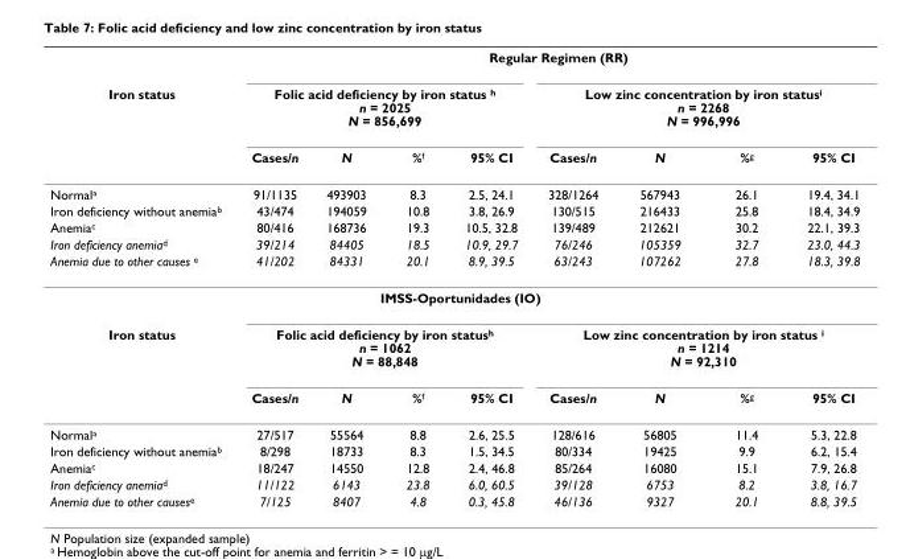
<table><thead><tr><td rowspan="3">Iron status</td><td colspan="8">Regular Regimen (RR)</td></tr><tr><td colspan="4">Folic acid deficiency by iron status <sup>h</sup> n = 2025 N = 856,699</td><td colspan="4">Low zinc concentration by iron status<sup>i</sup> n = 2268 N = 996,996</td></tr><tr><td>Cases/n</td><td>N</td><td>%<sup>f</sup></td><td>95% CI</td><td>Cases/n</td><td>N</td><td>%<sup>g</sup></td><td>95% CI</td></tr></thead><tbody><tr><td>Normal<sup>a</sup></td><td>91/1135</td><td>493903</td><td>8.3</td><td>2.5, 24.1</td><td>328/1264</td><td>567943</td><td>26.1</td><td>19.4, 34.1</td></tr><tr><td>Iron deficiency without anemia<sup>b</sup></td><td>43/474</td><td>194059</td><td>10.8</td><td>3.8, 26.9</td><td>130/515</td><td>216433</td><td>25.8</td><td>18.4, 34.9</td></tr><tr><td>Anemia<sup>c</sup></td><td>80/416</td><td>168736</td><td>19.3</td><td>10.5, 32.8</td><td>139/489</td><td>212621</td><td>30.2</td><td>22.1, 39.3</td></tr><tr><td>Iron deficiency anemia<sup>d</sup></td><td>39/214</td><td>84405</td><td>18.5</td><td>10.9, 29.7</td><td>76/246</td><td>105359</td><td>32.7</td><td>23.0, 44.3</td></tr><tr><td>Anemia due to other causes <sup>e</sup></td><td>41/202</td><td>84331</td><td>20.1</td><td>8.9, 39.5</td><td>63/243</td><td>107262</td><td>27.8</td><td>18.3, 39.8</td></tr><tr><td colspan="9">IMSS-Oportunidades (IO)</td></tr><tr><td rowspan="2">Iron status</td><td colspan="4">Folic acid deficiency by iron status<sup>h</sup> n = 1062 N = 88,848</td><td colspan="4">Low zinc concentration by iron status <sup>i</sup> n = 1214 N = 92,310</td></tr><tr><td>Cases/n</td><td>N</td><td>%<sup>f</sup></td><td>95% CI</td><td>Cases/n</td><td>N</td><td>%<sup>g</sup></td><td>95% CI</td></tr><tr><td>Normal<sup>a</sup></td><td>27/517</td><td>55564</td><td>8.8</td><td>2.6, 25.5</td><td>128/616</td><td>56805</td><td>11.4</td><td>5.3, 22.8</td></tr><tr><td>Iron deficiency without anemia<sup>b</sup></td><td>8/298</td><td>18733</td><td>8.3</td><td>1.5, 34.5</td><td>80/334</td><td>19425</td><td>9.9</td><td>6.2, 15.4</td></tr><tr><td>Anemia<sup>c</sup></td><td>18/247</td><td>14550</td><td>12.8</td><td>2.4, 46.8</td><td>85/264</td><td>16080</td><td>15.1</td><td>7.9, 26.8</td></tr><tr><td>Iron deficiency anemia<sup>d</sup></td><td>11/122</td><td>6143</td><td>23.8</td><td>6.0, 60.5</td><td>39/128</td><td>6753</td><td>8.2</td><td>3.8, 16.7</td></tr><tr><td>Anemia due to other causes<sup>e</sup></td><td>7/125</td><td>8407</td><td>4.8</td><td>0.3, 45.8</td><td>46/136</td><td>9327</td><td>20.1</td><td>8.8, 39.5</td></tr></tbody></table>